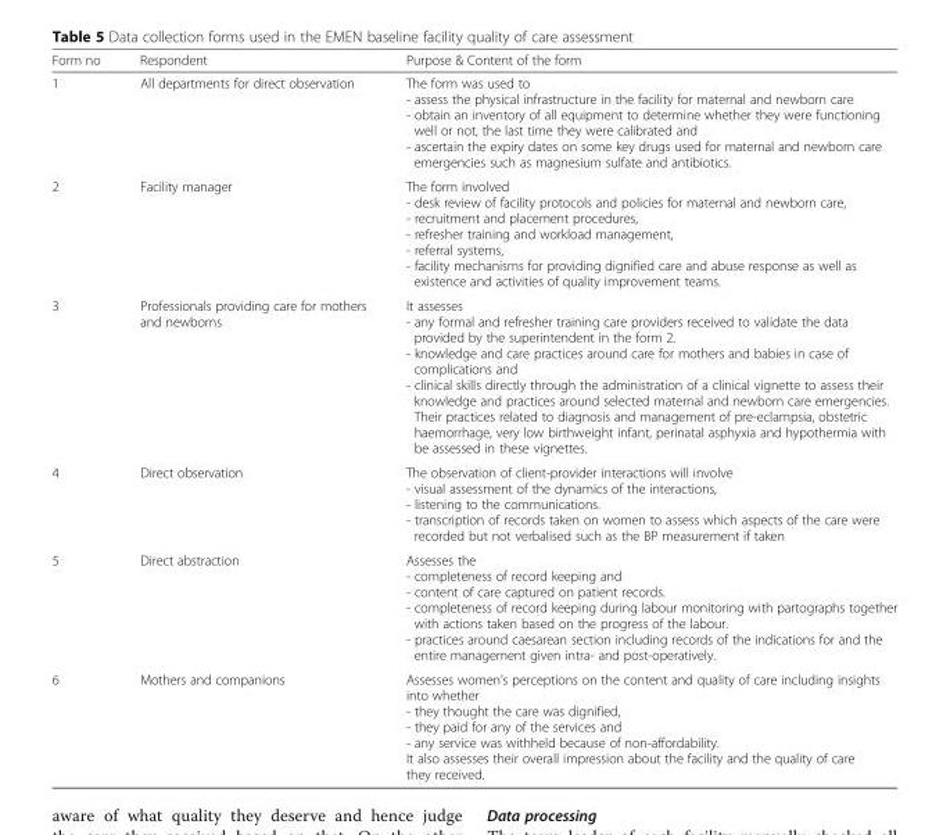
<table><thead><tr><td>Form no</td><td>Respondent</td><td>Purpose &amp; Content of the form</td></tr></thead><tbody><tr><td>1</td><td>All departments for direct observation</td><td>The form was used to - assess the physical infrastructure in the facility for maternal and newborn care - obtain an inventory of all equipment to determine whether they were functioning well or not, the last time they were calibrated and - ascertain the expiry dates on some key drugs used for maternal and newborn care emergencies such as magnesium sulfate and antibiotics.</td></tr><tr><td>2</td><td>Facility manager</td><td>The form involved - desk review of facility protocols and policies for maternal and newborn care, - recruitment and placement procedures, - refresher training and workload management, - referral systems, - facility mechanisms for providing dignified care and abuse response as well as existence and activities of quality improvement teams.</td></tr><tr><td>3</td><td>Professionals providing care for mothers and newborns</td><td>It assesses - any formal and refresher training care providers received to validate the data provided by the superintendent in the form 2. - knowledge and care practices around care for mothers and babies in case of complications and - clinical skills directly through the administration of a clinical vignette to assess their knowledge and practices around selected maternal and newborn care emergencies. Their practices related to diagnosis and management of pre-eclampsia, obstetric haemorrhage, very low birthweight infant, perinatal asphyxia and hypothermia with be assessed in these vignettes.</td></tr><tr><td>4</td><td>Direct observation</td><td>The observation of client-provider interactions will involve - visual assessment of the dynamics of the interactions, - listening to the communications. - transcription of records taken on women to assess which aspects of the care were recorded but not verbalised such as the BP measurement if taken</td></tr><tr><td>5</td><td>Direct abstraction</td><td>Assesses the - completeness of record keeping and - content of care captured on patient records. - completeness of record keeping during labour monitoring with partographs together with actions taken based on the progress of the labour. - practices around caesarean section including records of the indications for and the entire management given intra- and post-operatively.</td></tr><tr><td>6</td><td>Mothers and companions</td><td>Assesses women’s perceptions on the content and quality of care including insights into whether - they thought the care was dignified, - they paid for any of the services and - any service was withheld because of non-affordability. It also assesses their overall impression about the facility and the quality of care they received.</td></tr></tbody></table>